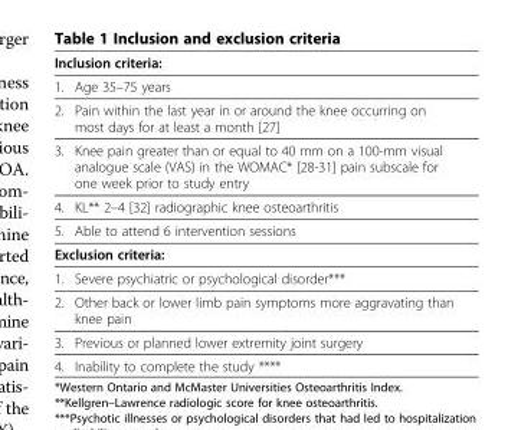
<table><thead><tr><td colspan="2">Inclusion criteria:</td></tr><tr><td>1.</td><td>Age 35–75 years</td></tr></thead><tbody><tr><td>2.</td><td>Pain within the last year in or around the knee occurring on most days for at least a month [27]</td></tr><tr><td>3.</td><td>Knee pain greater than or equal to 40 mm on a 100-mm visual analogue scale (VAS) in the WOMAC* [28-31] pain subscale for one week prior to study entry</td></tr><tr><td>4.</td><td>KL** 2–4 [32] radiographic knee osteoarthritis</td></tr><tr><td>5.</td><td>Able to attend 6 intervention sessions</td></tr><tr><td colspan="2">Exclusion criteria:</td></tr><tr><td>1.</td><td>Severe psychiatric or psychological disorder***</td></tr><tr><td>2.</td><td>Other back or lower limb pain symptoms more aggravating than knee pain</td></tr><tr><td>3.</td><td>Previous or planned lower extremity joint surgery</td></tr><tr><td>4.</td><td>Inability to complete the study ****</td></tr></tbody></table>